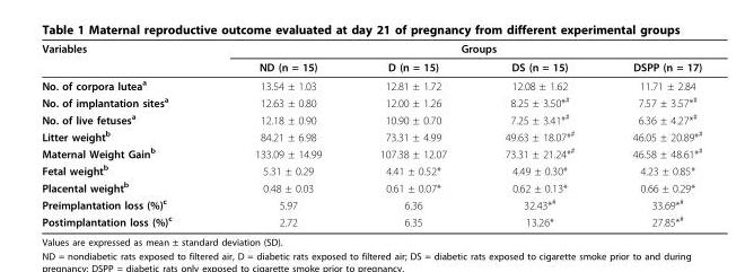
<table><thead><tr><td rowspan="2">Variables</td><td colspan="4">Groups</td></tr><tr><td>ND (n = 15)</td><td>D (n = 15)</td><td>DS (n = 15)</td><td>DSPP (n = 17)</td></tr></thead><tbody><tr><td>No. of corpora lutea<sup>a</sup></td><td>13.54 ± 1.03</td><td>12.81 ± 1.72</td><td>12.08 ± 1.62</td><td>11.71 ± 2.84</td></tr><tr><td>No. of implantation sites<sup>a</sup></td><td>12.63 ± 0.80</td><td>12.00 ± 1.26</td><td>8.25 ± 3.50*<sup>#</sup></td><td>7.57 ± 3.57*<sup>#</sup></td></tr><tr><td>No. of live fetuses<sup>a</sup></td><td>12.18 ± 0.90</td><td>10.90 ± 0.70</td><td>7.25 ± 3.41*<sup>#</sup></td><td>6.36 ± 4.27*<sup>#</sup></td></tr><tr><td>Litter weight<sup>b</sup></td><td>84.21 ± 6.98</td><td>73.31 ± 4.99</td><td>49.63 ± 18.07*<sup>#</sup></td><td>46.05 ± 20.89*<sup>#</sup></td></tr><tr><td>Maternal Weight Gain<sup>b</sup></td><td>133.09 ± 14.99</td><td>107.38 ± 12.07</td><td>73.31 ± 21.24*<sup>#</sup></td><td>46.58 ± 48.61*<sup>#</sup></td></tr><tr><td>Fetal weight<sup>b</sup></td><td>5.31 ± 0.29</td><td>4.41 ± 0.52*</td><td>4.49 ± 0.30*</td><td>4.23 ± 0.85*</td></tr><tr><td>Placental weight<sup>b</sup></td><td>0.48 ± 0.03</td><td>0.61 ± 0.07*</td><td>0.62 ± 0.13*</td><td>0.66 ± 0.29*</td></tr><tr><td>Preimplantation loss (%)<sup>c</sup></td><td>5.97</td><td>6.36</td><td>32.43*<sup>#</sup></td><td>33.69*<sup>#</sup></td></tr><tr><td>Postimplantation loss (%)<sup>c</sup></td><td>2.72</td><td>6.35</td><td>13.26*</td><td>27.85*<sup>#</sup></td></tr></tbody></table>